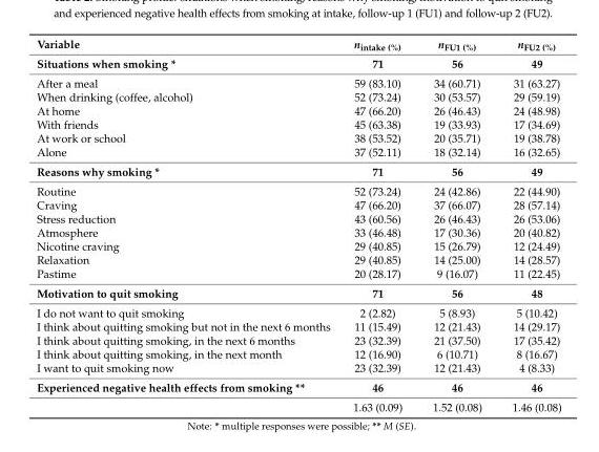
<table><thead><tr><td>Variable</td><td>n<sub>intake (%)</sub></td><td>n<sub>FU1 (%)</sub></td><td>n<sub>FU2 (%)</sub></td></tr></thead><tbody><tr><td>Situations when smoking *</td><td>71</td><td>56</td><td>49</td></tr><tr><td>After a meal</td><td>59 (83.10)</td><td>34 (60.71)</td><td>31 (63.27)</td></tr><tr><td>When drinking (coffee, alcohol)</td><td>52 (73.24)</td><td>30 (53.57)</td><td>29 (59.19)</td></tr><tr><td>At home</td><td>47 (66.20)</td><td>26 (46.43)</td><td>24 (48.98)</td></tr><tr><td>With friends</td><td>45 (63.38)</td><td>19 (33.93)</td><td>17 (34.69)</td></tr><tr><td>At work or school</td><td>38 (53.52)</td><td>20 (35.71)</td><td>19 (38.78)</td></tr><tr><td>Alone</td><td>37 (52.11)</td><td>18 (32.14)</td><td>16 (32.65)</td></tr><tr><td>Reasons why smoking *</td><td>71</td><td>56</td><td>49</td></tr><tr><td>Routine</td><td>52 (73.24)</td><td>24 (42.86)</td><td>22 (44.90)</td></tr><tr><td>Craving</td><td>47 (66.20)</td><td>37 (66.07)</td><td>28 (57.14)</td></tr><tr><td>Stress reduction</td><td>43 (60.56)</td><td>26 (46.43)</td><td>26 (53.06)</td></tr><tr><td>Atmosphere</td><td>33 (46.48)</td><td>17 (30.36)</td><td>20 (40.82)</td></tr><tr><td>Nicotine craving</td><td>29 (40.85)</td><td>15 (26.79)</td><td>12 (24.49)</td></tr><tr><td>Relaxation</td><td>29 (40.85)</td><td>14 (25.00)</td><td>14 (28.57)</td></tr><tr><td>Pastime</td><td>20 (28.17)</td><td>9 (16.07)</td><td>11 (22.45)</td></tr><tr><td>Motivation to quit smoking</td><td>71</td><td>56</td><td>48</td></tr><tr><td>I do not want to quit smoking</td><td>2 (2.82)</td><td>5 (8.93)</td><td>5 (10.42)</td></tr><tr><td>I think about quitting smoking but not in the next 6 months</td><td>11 (15.49)</td><td>12 (21.43)</td><td>14 (29.17)</td></tr><tr><td>I think about quitting smoking, in the next 6 months</td><td>23 (32.39)</td><td>21 (37.50)</td><td>17 (35.42)</td></tr><tr><td>I think about quitting smoking, in the next month</td><td>12 (16.90)</td><td>6 (10.71)</td><td>8 (16.67)</td></tr><tr><td>I want to quit smoking now</td><td>23 (32.39)</td><td>12 (21.43)</td><td>4 (8.33)</td></tr><tr><td rowspan="2">Experienced negative health effects from smoking **</td><td>46</td><td>46</td><td>46</td></tr><tr><td>1.63 (0.09)</td><td>1.52 (0.08)</td><td>1.46 (0.08)</td></tr></tbody></table>